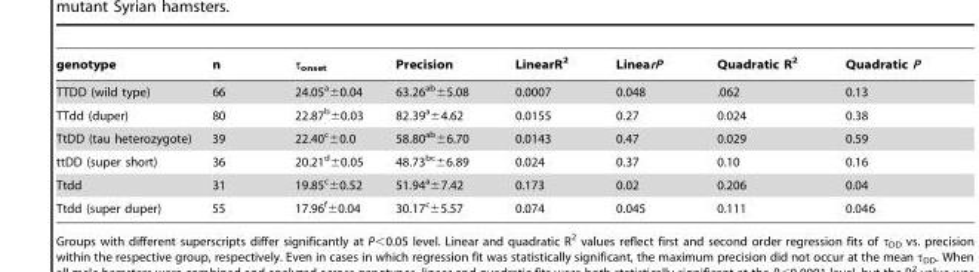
<table><thead><tr><td>genotype</td><td>n</td><td>τ<sub>onset</sub></td><td>Precision</td><td>LinearR<sup>2</sup></td><td>LinearP</td><td>Quadratic R<sup>2</sup></td><td>Quadratic P</td></tr></thead><tbody><tr><td>TTDD (wild type)</td><td>66</td><td>24.05<sup>a</sup>±0.04</td><td>63.26<sup>ab</sup>±5.08</td><td>0.0007</td><td>0.048</td><td>.062</td><td>0.13</td></tr><tr><td>TTdd (duper)</td><td>80</td><td>22.87<sup>b</sup>±0.03</td><td>82.39<sup>a</sup>±4.62</td><td>0.0155</td><td>0.27</td><td>0.024</td><td>0.38</td></tr><tr><td>TtDD (tau heterozygote)</td><td>39</td><td>22.40<sup>c</sup>±0.0</td><td>58.80<sup>ab</sup>±6.70</td><td>0.0143</td><td>0.47</td><td>0.029</td><td>0.59</td></tr><tr><td>ttDD (super short)</td><td>36</td><td>20.21<sup>d</sup>±0.05</td><td>48.73<sup>bc</sup>±6.89</td><td>0.024</td><td>0.37</td><td>0.10</td><td>0.16</td></tr><tr><td>Ttdd</td><td>31</td><td>19.85<sup>c</sup>±0.52</td><td>51.94<sup>a</sup>±7.42</td><td>0.173</td><td>0.02</td><td>0.206</td><td>0.04</td></tr><tr><td>Ttdd (super duper)</td><td>55</td><td>17.96<sup>f</sup>±0.04</td><td>30.17<sup>c</sup>±5.57</td><td>0.074</td><td>0.045</td><td>0.111</td><td>0.046</td></tr></tbody></table>